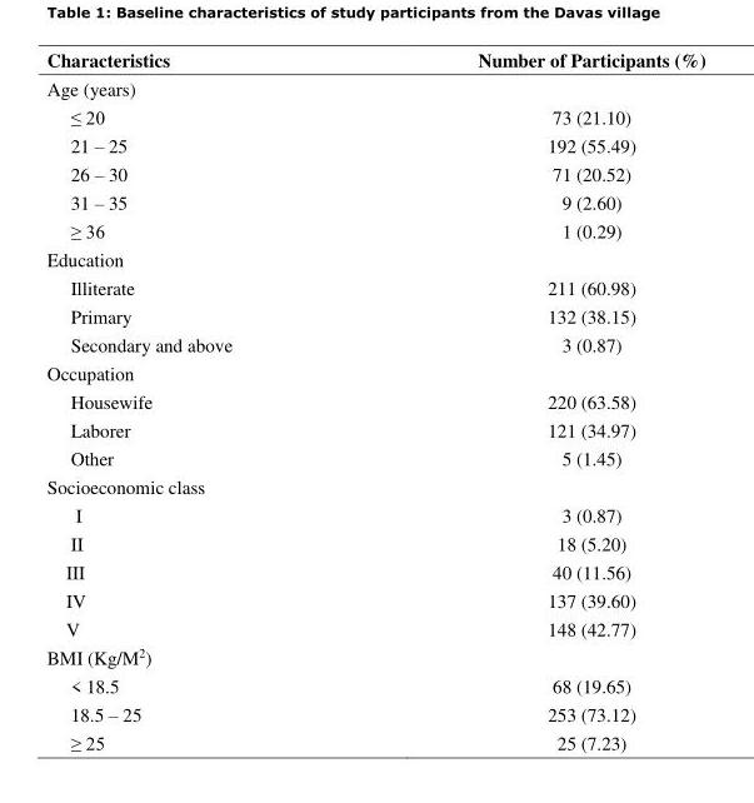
<table><thead><tr><td>Characteristics</td><td>Number of Participants (%)</td></tr></thead><tbody><tr><td colspan="2">Age (years)</td></tr><tr><td>≤ 20</td><td>73 (21.10)</td></tr><tr><td>21 – 25</td><td>192 (55.49)</td></tr><tr><td>26 – 30</td><td>71 (20.52)</td></tr><tr><td>31 – 35</td><td>9 (2.60)</td></tr><tr><td>≥ 36</td><td>1 (0.29)</td></tr><tr><td colspan="2">Education</td></tr><tr><td>Illiterate</td><td>211 (60.98)</td></tr><tr><td>Primary</td><td>132 (38.15)</td></tr><tr><td>Secondary and above</td><td>3 (0.87)</td></tr><tr><td colspan="2">Occupation</td></tr><tr><td>Housewife</td><td>220 (63.58)</td></tr><tr><td>Laborer</td><td>121 (34.97)</td></tr><tr><td>Other</td><td>5 (1.45)</td></tr><tr><td colspan="2">Socioeconomic class</td></tr><tr><td>I</td><td>3 (0.87)</td></tr><tr><td>II</td><td>18 (5.20)</td></tr><tr><td>III</td><td>40 (11.56)</td></tr><tr><td>IV</td><td>137 (39.60)</td></tr><tr><td>V</td><td>148 (42.77)</td></tr><tr><td colspan="2">BMI (Kg/M2)</td></tr><tr><td>&lt; 18.5</td><td>68 (19.65)</td></tr><tr><td>18.5 – 25</td><td>253 (73.12)</td></tr><tr><td>≥ 25</td><td>25 (7.23)</td></tr></tbody></table>